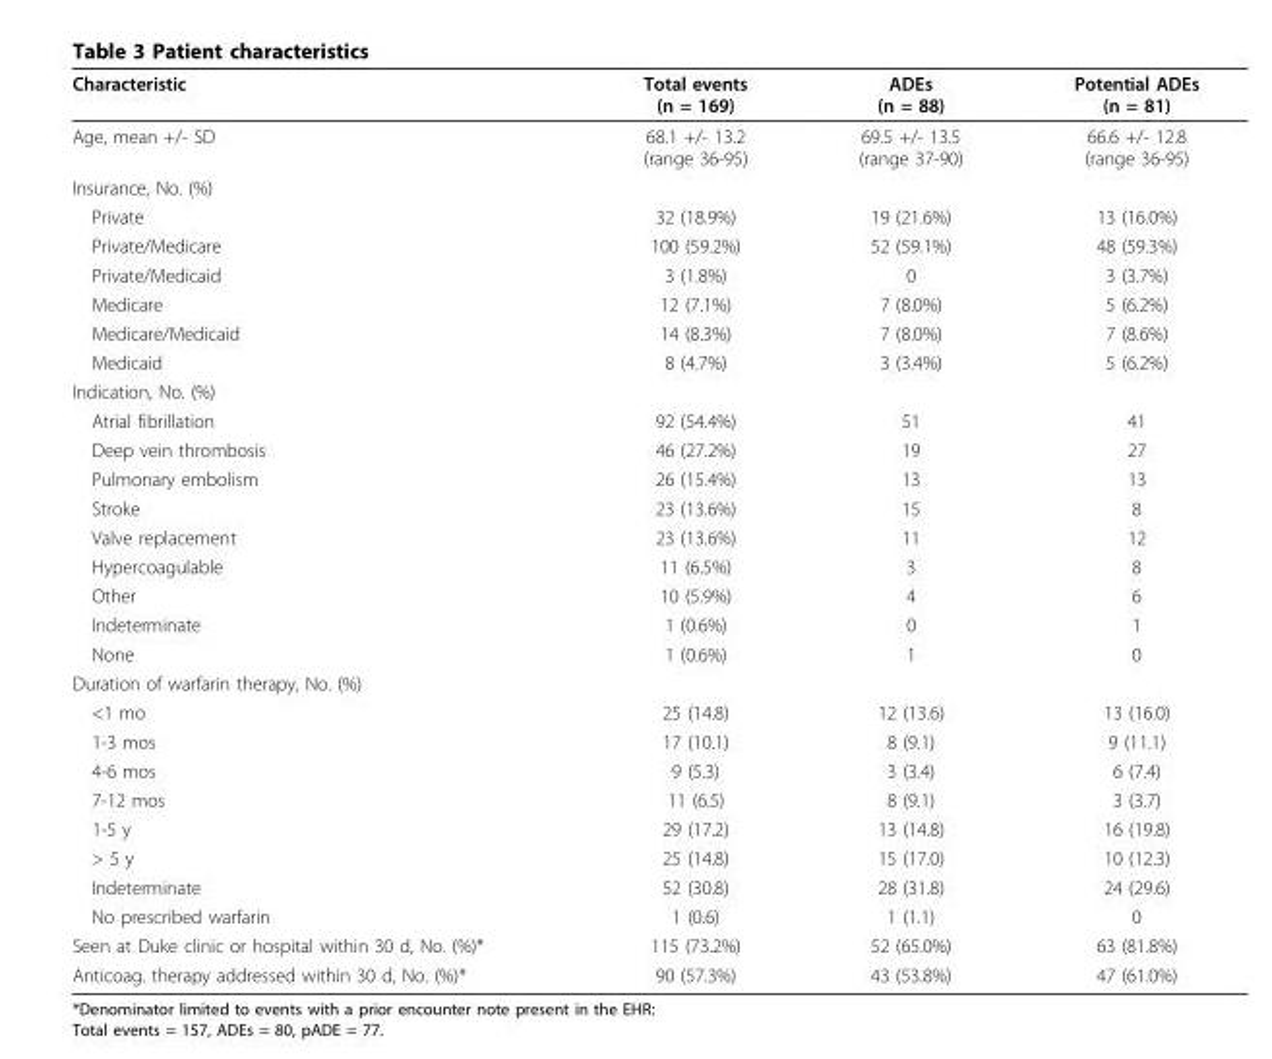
<table><thead><tr><td>Characteristic</td><td>Total events (n = 169)</td><td>ADEs (n = 88)</td><td>Potential ADEs (n = 81)</td></tr></thead><tbody><tr><td>Age, mean +/- SD</td><td>68.1 +/- 13.2 (range 36-95)</td><td>69.5 +/- 13.5 (range 37-90)</td><td>66.6 +/- 12.8 (range 36-95)</td></tr><tr><td colspan="4">Insurance, No. (%)</td></tr><tr><td>Private</td><td>32 (18.9%)</td><td>19 (21.6%)</td><td>13 (16.0%)</td></tr><tr><td>Private/Medicare</td><td>100 (59.2%)</td><td>52 (59.1%)</td><td>48 (59.3%)</td></tr><tr><td>Private/Medicaid</td><td>3 (1.8%)</td><td>0</td><td>3 (3.7%)</td></tr><tr><td>Medicare</td><td>12 (7.1%)</td><td>7 (8.0%)</td><td>5 (6.2%)</td></tr><tr><td>Medicare/Medicaid</td><td>14 (8.3%)</td><td>7 (8.0%)</td><td>7 (8.6%)</td></tr><tr><td>Medicaid</td><td>8 (4.7%)</td><td>3 (3.4%)</td><td>5 (6.2%)</td></tr><tr><td colspan="4">Indication, No. (%)</td></tr><tr><td>Atrial fibrillation</td><td>92 (54.4%)</td><td>51</td><td>41</td></tr><tr><td>Deep vein thrombosis</td><td>46 (27.2%)</td><td>19</td><td>27</td></tr><tr><td>Pulmonary embolism</td><td>26 (15.4%)</td><td>13</td><td>13</td></tr><tr><td>Stroke</td><td>23 (13.6%)</td><td>15</td><td>8</td></tr><tr><td>Valve replacement</td><td>23 (13.6%)</td><td>11</td><td>12</td></tr><tr><td>Hypercoagulable</td><td>11 (6.5%)</td><td>3</td><td>8</td></tr><tr><td>Other</td><td>10 (5.9%)</td><td>4</td><td>6</td></tr><tr><td>Indeterminate</td><td>1 (0.6%)</td><td>0</td><td>1</td></tr><tr><td>None</td><td>1 (0.6%)</td><td>1</td><td>0</td></tr><tr><td colspan="4">Duration of warfarin therapy, No. (%)</td></tr><tr><td>&lt;1 mo</td><td>25 (14.8)</td><td>12 (13.6)</td><td>13 (16.0)</td></tr><tr><td>1-3 mos</td><td>17 (10.1)</td><td>8 (9.1)</td><td>9 (11.1)</td></tr><tr><td>4-6 mos</td><td>9 (5.3)</td><td>3 (3.4)</td><td>6 (7.4)</td></tr><tr><td>7-12 mos</td><td>11 (6.5)</td><td>8 (9.1)</td><td>3 (3.7)</td></tr><tr><td>1-5 y</td><td>29 (17.2)</td><td>13 (14.8)</td><td>16 (19.8)</td></tr><tr><td>&gt; 5 y</td><td>25 (14.8)</td><td>15 (17.0)</td><td>10 (12.3)</td></tr><tr><td>Indeterminate</td><td>52 (30.8)</td><td>28 (31.8)</td><td>24 (29.6)</td></tr><tr><td>No prescribed warfarin</td><td>1 (0.6)</td><td>1 (1.1)</td><td>0</td></tr><tr><td>Seen at Duke clinic or hospital within 30 d, No. (%)*</td><td>115 (73.2%)</td><td>52 (65.0%)</td><td>63 (81.8%)</td></tr><tr><td>Anticoag. therapy addressed within 30 d, No. (%)*</td><td>90 (57.3%)</td><td>43 (53.8%)</td><td>47 (61.0%)</td></tr></tbody></table>